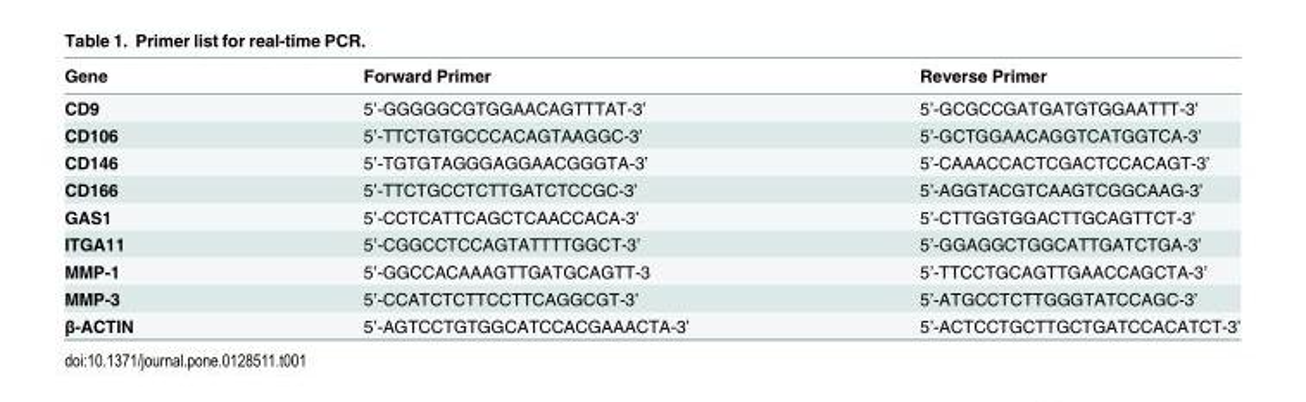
<table><thead><tr><td>Gene</td><td>Forward Primer</td><td>Reverse Primer</td></tr></thead><tbody><tr><td>CD9</td><td>5’-GGGGGCGTGGAACAGTTTAT-3’</td><td>5’-GCGCCGATGATGTGGAATTT-3’</td></tr><tr><td>CD106</td><td>5’-TTCTGTGCCCACAGTAAGGC-3’</td><td>5’-GCTGGAACAGGTCATGGTCA-3’</td></tr><tr><td>CD146</td><td>5’-TGTGTAGGGAGGAACGGGTA-3’</td><td>5’-CAAACCACTCGACTCCACAGT-3’</td></tr><tr><td>CD166</td><td>5’-TTCTGCCTCTTGATCTCCGC-3’</td><td>5’-AGGTACGTCAAGTCGGCAAG-3’</td></tr><tr><td>GAS1</td><td>5’-CCTCATTCAGCTCAACCACA-3’</td><td>5’-CTTGGTGGACTTGCAGTTCT-3’</td></tr><tr><td>ITGA11</td><td>5’-CGGCCTCCAGTATTTTGGCT-3’</td><td>5’-GGAGGCTGGCATTGATCTGA-3’</td></tr><tr><td>MMP-1</td><td>5’-GGCCACAAAGTTGATGCAGTT-3</td><td>5’-TTCCTGCAGTTGAACCAGCTA-3’</td></tr><tr><td>MMP-3</td><td>5’-CCATCTCTTCCTTCAGGCGT-3’</td><td>5’-ATGCCTCTTGGGTATCCAGC-3’</td></tr><tr><td>β-ACTIN</td><td>5’-AGTCCTGTGGCATCCACGAAACTA-3’</td><td>5’-ACTCCTGCTTGCTGATCCACATCT-3’</td></tr></tbody></table>